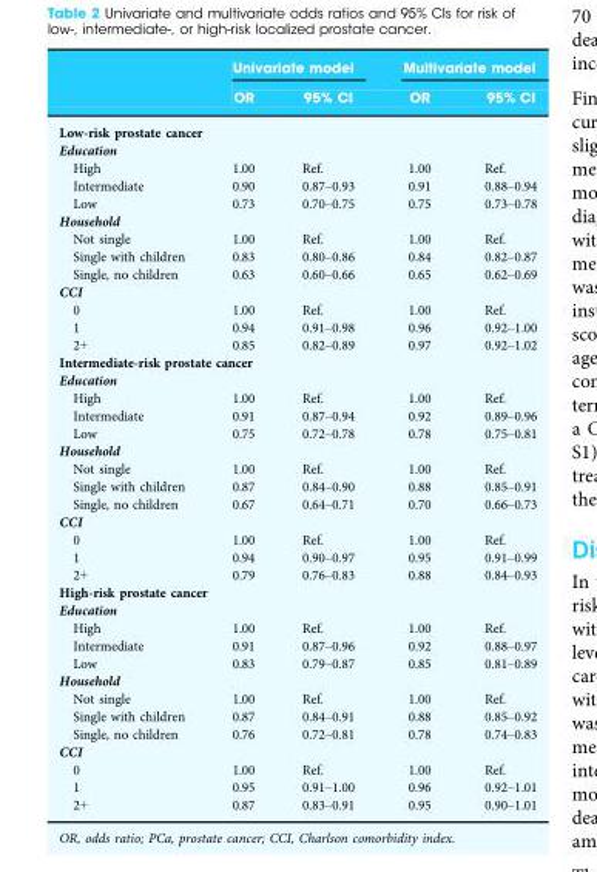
<table><thead><tr><td rowspan="2"></td><td colspan="2">Univariate model</td><td colspan="2">Multivariate model</td></tr><tr><td>OR</td><td>95% CI</td><td>OR</td><td>95% CI</td></tr></thead><tbody><tr><td colspan="5">Low-risk prostate cancer</td></tr><tr><td colspan="5">Education</td></tr><tr><td>High</td><td>1.00</td><td>Ref.</td><td>1.00</td><td>Ref.</td></tr><tr><td>Intermediate</td><td>0.90</td><td>0.87–0.93</td><td>0.91</td><td>0.88–0.94</td></tr><tr><td>Low</td><td>0.73</td><td>0.70–0.75</td><td>0.75</td><td>0.73–0.78</td></tr><tr><td colspan="5">Household</td></tr><tr><td>Not single</td><td>1.00</td><td>Ref.</td><td>1.00</td><td>Ref.</td></tr><tr><td>Single with children</td><td>0.83</td><td>0.80–0.86</td><td>0.84</td><td>0.82–0.87</td></tr><tr><td>Single, no children</td><td>0.63</td><td>0.60–0.66</td><td>0.65</td><td>0.62–0.69</td></tr><tr><td colspan="5">CCI</td></tr><tr><td>0</td><td>1.00</td><td>Ref.</td><td>1.00</td><td>Ref.</td></tr><tr><td>1</td><td>0.94</td><td>0.91–0.98</td><td>0.96</td><td>0.92–1.00</td></tr><tr><td>2+</td><td>0.85</td><td>0.82–0.89</td><td>0.97</td><td>0.92–1.02</td></tr><tr><td colspan="5">Intermediate-risk prostate cancer</td></tr><tr><td colspan="5">Education</td></tr><tr><td>High</td><td>1.00</td><td>Ref.</td><td>1.00</td><td>Ref.</td></tr><tr><td>Intermediate</td><td>0.91</td><td>0.87–0.94</td><td>0.92</td><td>0.89–0.96</td></tr><tr><td>Low</td><td>0.75</td><td>0.72–0.78</td><td>0.78</td><td>0.75–0.81</td></tr><tr><td colspan="5">Household</td></tr><tr><td>Not single</td><td>1.00</td><td>Ref.</td><td>1.00</td><td>Ref.</td></tr><tr><td>Single with children</td><td>0.87</td><td>0.84–0.90</td><td>0.88</td><td>0.85–0.91</td></tr><tr><td>Single, no children</td><td>0.67</td><td>0.64–0.71</td><td>0.70</td><td>0.66–0.73</td></tr><tr><td colspan="5">CCI</td></tr><tr><td>0</td><td>1.00</td><td>Ref.</td><td>1.00</td><td>Ref.</td></tr><tr><td>1</td><td>0.94</td><td>0.90–0.97</td><td>0.95</td><td>0.91–0.99</td></tr><tr><td>2+</td><td>0.79</td><td>0.76–0.83</td><td>0.88</td><td>0.84–0.93</td></tr><tr><td colspan="5">High-risk prostate cancer</td></tr><tr><td colspan="5">Education</td></tr><tr><td>High</td><td>1.00</td><td>Ref.</td><td>1.00</td><td>Ref.</td></tr><tr><td>Intermediate</td><td>0.91</td><td>0.87–0.96</td><td>0.92</td><td>0.88–0.97</td></tr><tr><td>Low</td><td>0.83</td><td>0.79–0.87</td><td>0.85</td><td>0.81–0.89</td></tr><tr><td colspan="5">Household</td></tr><tr><td>Not single</td><td>1.00</td><td>Ref.</td><td>1.00</td><td>Ref.</td></tr><tr><td>Single with children</td><td>0.87</td><td>0.84–0.91</td><td>0.88</td><td>0.85–0.92</td></tr><tr><td>Single, no children</td><td>0.76</td><td>0.72–0.81</td><td>0.78</td><td>0.74–0.83</td></tr><tr><td colspan="5">CCI</td></tr><tr><td>0</td><td>1.00</td><td>Ref.</td><td>1.00</td><td>Ref.</td></tr><tr><td>1</td><td>0.95</td><td>0.91–1.00</td><td>0.96</td><td>0.92–1.01</td></tr><tr><td>2+</td><td>0.87</td><td>0.83–0.91</td><td>0.95</td><td>0.90–1.01</td></tr></tbody></table>